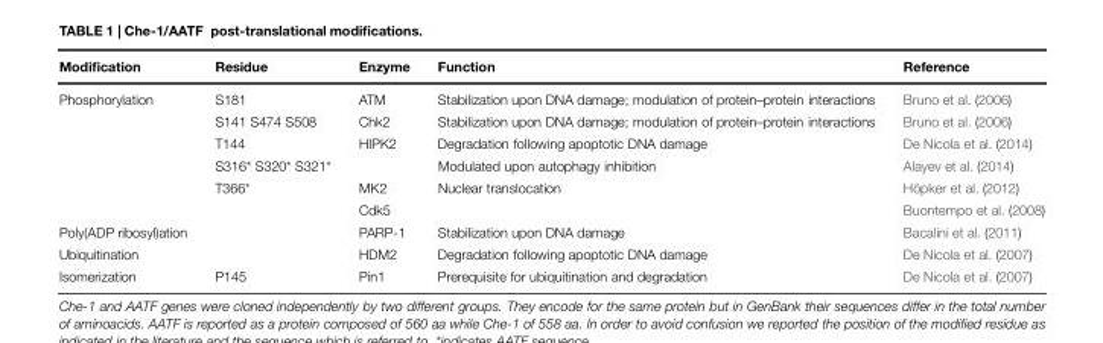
<table><thead><tr><td>Modification</td><td>Residue</td><td>Enzyme</td><td>Function</td><td>Reference</td></tr></thead><tbody><tr><td rowspan="6">Phosphorylation</td><td>S181</td><td>ATM</td><td>Stabilization upon DNA damage; modulation of protein–protein interactions</td><td>Bruno et al. (2006)</td></tr><tr><td>S141 S474 S508</td><td>Chk2</td><td>Stabilization upon DNA damage; modulation of protein–protein interactions</td><td>Bruno et al. (2006)</td></tr><tr><td>T144</td><td>HIPK2</td><td>Degradation following apoptotic DNA damage</td><td>De Nicola et al. (2014)</td></tr><tr><td>S316* S320* S321*</td><td></td><td>Modulated upon autophagy inhibition</td><td>Alayev et al. (2014)</td></tr><tr><td>T366*</td><td>MK2</td><td>Nuclear translocation</td><td>Höpker et al. (2012)</td></tr><tr><td></td><td>Cdk5</td><td></td><td>Buontempo et al. (2008)</td></tr><tr><td>Poly(ADP ribosyl)ation</td><td></td><td>PARP-1</td><td>Stabilization upon DNA damage</td><td>Bacalini et al. (2011)</td></tr><tr><td>Ubiquitination</td><td></td><td>HDM2</td><td>Degradation following apoptotic DNA damage</td><td>De Nicola et al. (2007)</td></tr><tr><td>Isomerization</td><td>P145</td><td>Pin1</td><td>Prerequisite for ubiquitination and degradation</td><td>De Nicola et al. (2007)</td></tr></tbody></table>